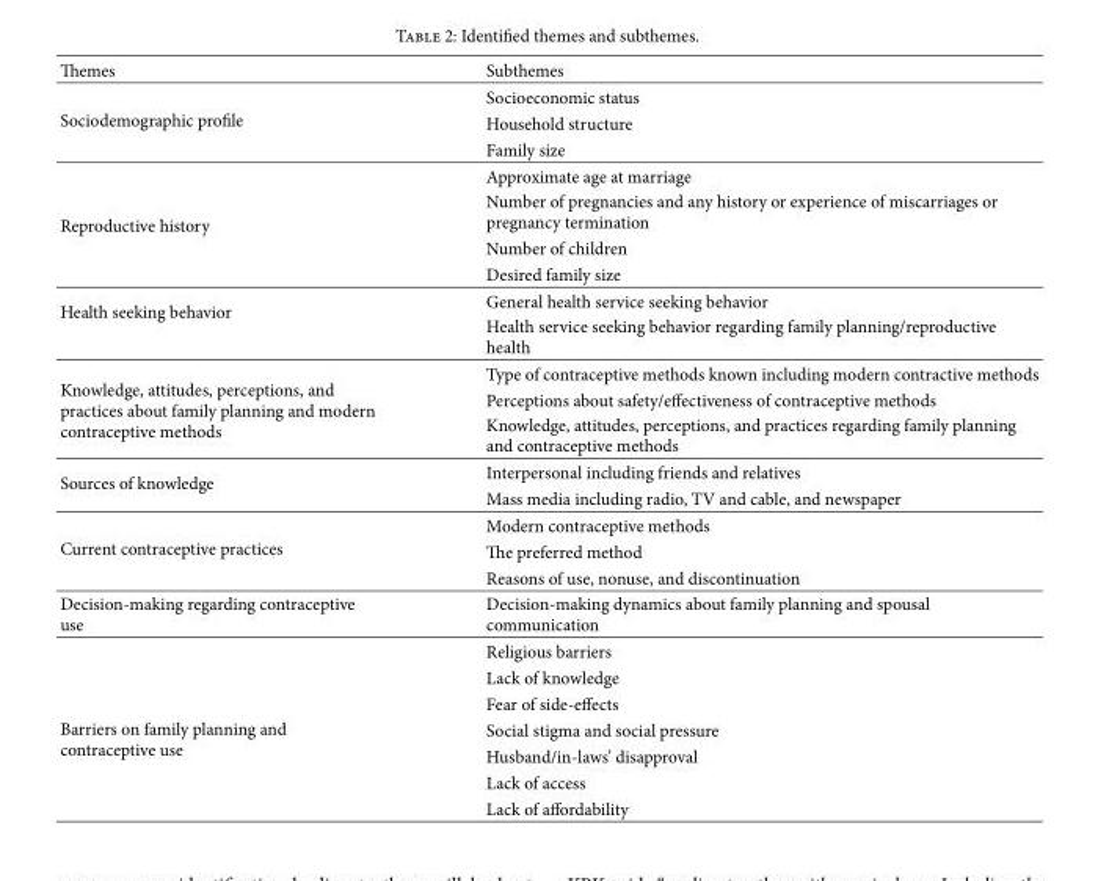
<table><thead><tr><td>Themes</td><td>Subthemes</td></tr></thead><tbody><tr><td rowspan="3">Sociodemographic profile</td><td>Socioeconomic status</td></tr><tr><td>Household structure</td></tr><tr><td>Family size</td></tr><tr><td rowspan="4">Reproductive history</td><td>Approximate age at marriage</td></tr><tr><td>Number of pregnancies and any history or experience of miscarriages or pregnancy termination</td></tr><tr><td>Number of children</td></tr><tr><td>Desired family size</td></tr><tr><td rowspan="2">Health seeking behavior</td><td>General health service seeking behavior</td></tr><tr><td>Health service seeking behavior regarding family planning/reproductive health</td></tr><tr><td rowspan="3">Knowledge, attitudes, perceptions, and practices about family planning and modern contraceptive methods</td><td>Type of contraceptive methods known including modern contractive methods</td></tr><tr><td>Perceptions about safety/effectiveness of contraceptive methods</td></tr><tr><td>Knowledge, attitudes, perceptions, and practices regarding family planning and contraceptive methods</td></tr><tr><td rowspan="2">Sources of knowledge</td><td>Interpersonal including friends and relatives</td></tr><tr><td>Mass media including radio, TV and cable, and newspaper</td></tr><tr><td rowspan="3">Current contraceptive practices</td><td>Modern contraceptive methods</td></tr><tr><td>The preferred method</td></tr><tr><td>Reasons of use, nonuse, and discontinuation</td></tr><tr><td>Decision-making regarding contraceptive use</td><td>Decision-making dynamics about family planning and spousal communication</td></tr><tr><td rowspan="7">Barriers on family planning and contraceptive use</td><td>Religious barriers</td></tr><tr><td>Lack of knowledge</td></tr><tr><td>Fear of side-effects</td></tr><tr><td>Social stigma and social pressure</td></tr><tr><td>Husband/in-laws’ disapproval</td></tr><tr><td>Lack of access</td></tr><tr><td>Lack of affordability</td></tr></tbody></table>